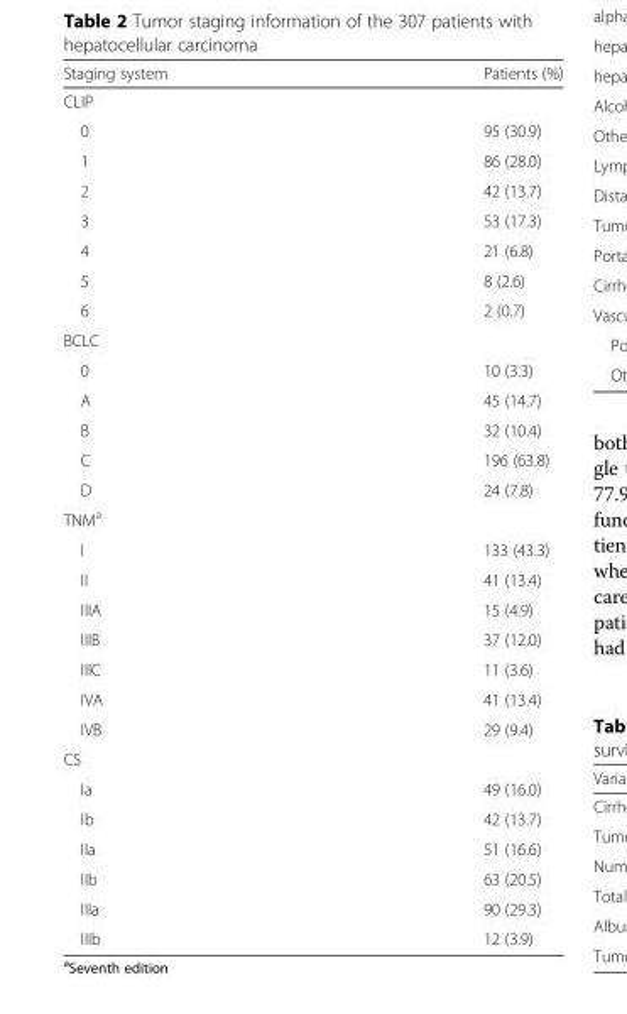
<table><thead><tr><td>Staging system</td><td>Patients (%)</td></tr></thead><tbody><tr><td colspan="2">CLIP</td></tr><tr><td>0</td><td>95 (30.9)</td></tr><tr><td>1</td><td>86 (28.0)</td></tr><tr><td>2</td><td>42 (13.7)</td></tr><tr><td>3</td><td>53 (17.3)</td></tr><tr><td>4</td><td>21 (6.8)</td></tr><tr><td>5</td><td>8 (2.6)</td></tr><tr><td>6</td><td>2 (0.7)</td></tr><tr><td colspan="2">BCLC</td></tr><tr><td>0</td><td>10 (3.3)</td></tr><tr><td>A</td><td>45 (14.7)</td></tr><tr><td>B</td><td>32 (10.4)</td></tr><tr><td>C</td><td>196 (63.8)</td></tr><tr><td>D</td><td>24 (7.8)</td></tr><tr><td colspan="2">TNM<sup>a</sup></td></tr><tr><td>I</td><td>133 (43.3)</td></tr><tr><td>II</td><td>41 (13.4)</td></tr><tr><td>IIIA</td><td>15 (4.9)</td></tr><tr><td>IIIB</td><td>37 (12.0)</td></tr><tr><td>IIIC</td><td>11 (3.6)</td></tr><tr><td>IVA</td><td>41 (13.4)</td></tr><tr><td>IVB</td><td>29 (9.4)</td></tr><tr><td colspan="2">CS</td></tr><tr><td>Ia</td><td>49 (16.0)</td></tr><tr><td>Ib</td><td>42 (13.7)</td></tr><tr><td>IIa</td><td>51 (16.6)</td></tr><tr><td>IIb</td><td>63 (20.5)</td></tr><tr><td>IIIa</td><td>90 (29.3)</td></tr><tr><td>IIIb</td><td>12 (3.9)</td></tr></tbody></table>